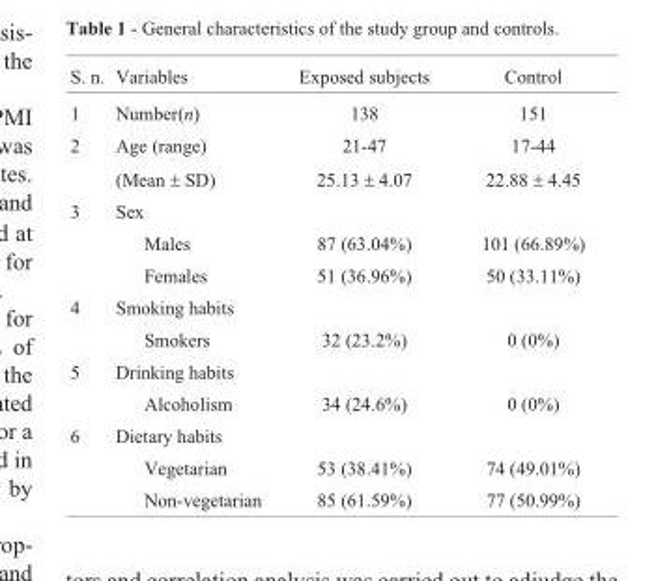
<table><thead><tr><td>S. n.</td><td>Variables</td><td>Exposed subjects</td><td>Control</td></tr></thead><tbody><tr><td>1</td><td>Number(n)</td><td>138</td><td>151</td></tr><tr><td rowspan="2">2</td><td>Age (range)</td><td>21-47</td><td>17-44</td></tr><tr><td>(Mean ± SD)</td><td>25.13 ± 4.07</td><td>22.88 ± 4.45</td></tr><tr><td rowspan="3">3</td><td>Sex</td><td></td><td></td></tr><tr><td>Males</td><td>87 (63.04%)</td><td>101 (66.89%)</td></tr><tr><td>Females</td><td>51 (36.96%)</td><td>50 (33.11%)</td></tr><tr><td rowspan="2">4</td><td>Smoking habits</td><td></td><td></td></tr><tr><td>Smokers</td><td>32 (23.2%)</td><td>0 (0%)</td></tr><tr><td rowspan="2">5</td><td>Drinking habits</td><td></td><td></td></tr><tr><td>Alcoholism</td><td>34 (24.6%)</td><td>0 (0%)</td></tr><tr><td rowspan="3">6</td><td>Dietary habits</td><td></td><td></td></tr><tr><td>Vegetarian</td><td>53 (38.41%)</td><td>74 (49.01%)</td></tr><tr><td>Non-vegetarian</td><td>85 (61.59%)</td><td>77 (50.99%)</td></tr></tbody></table>